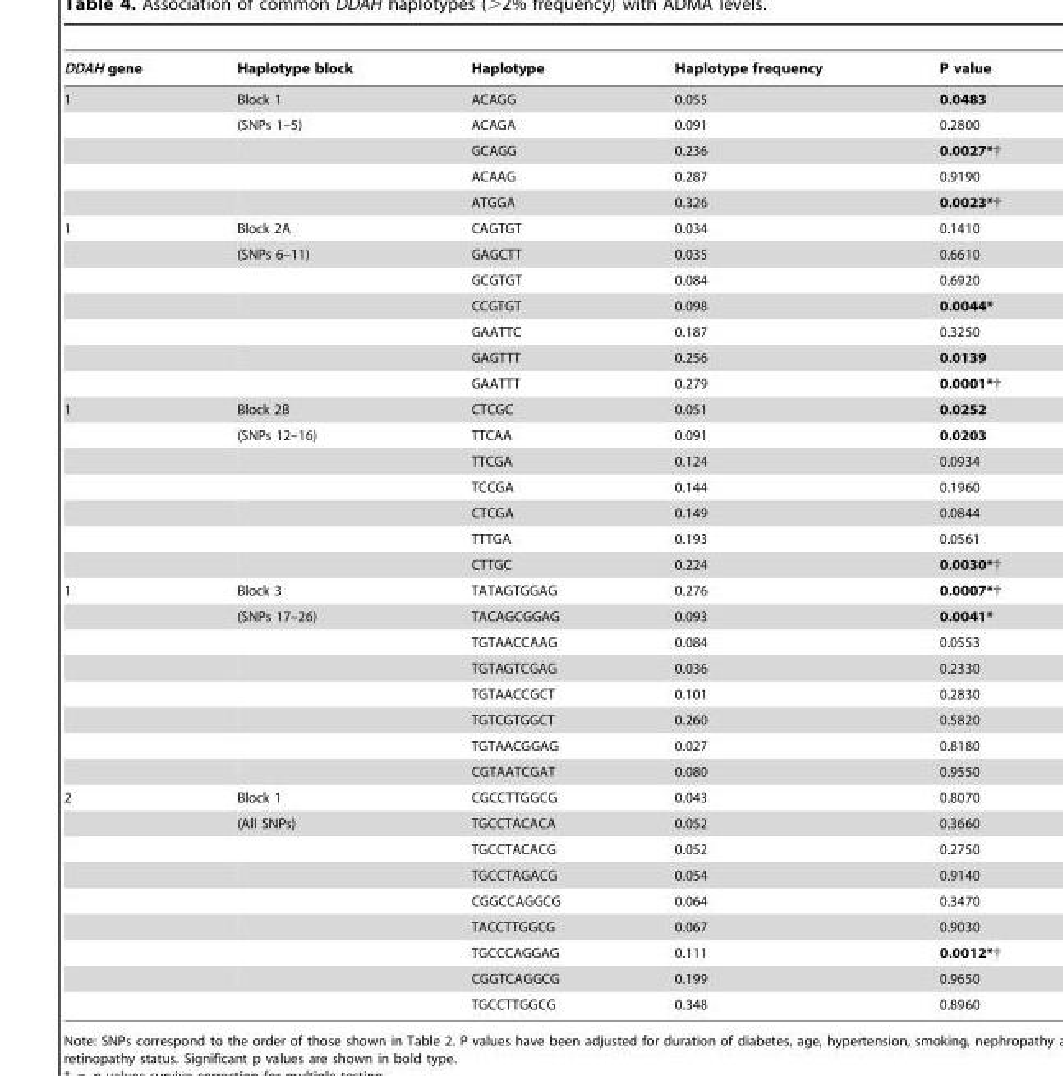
<table><thead><tr><td>DDAH gene</td><td>Haplotype block</td><td>Haplotype</td><td>Haplotype frequency</td><td>P value</td></tr></thead><tbody><tr><td rowspan="5">1</td><td>Block 1</td><td>ACAGG</td><td>0.055</td><td>0.0483</td></tr><tr><td>(SNPs 1–5)</td><td>ACAGA</td><td>0.091</td><td>0.2800</td></tr><tr><td></td><td>GCAGG</td><td>0.236</td><td>0.0027*†</td></tr><tr><td></td><td>ACAAG</td><td>0.287</td><td>0.9190</td></tr><tr><td></td><td>ATGGA</td><td>0.326</td><td>0.0023*†</td></tr><tr><td rowspan="7">1</td><td>Block 2A</td><td>CAGTGT</td><td>0.034</td><td>0.1410</td></tr><tr><td>(SNPs 6–11)</td><td>GAGCTT</td><td>0.035</td><td>0.6610</td></tr><tr><td></td><td>GCGTGT</td><td>0.084</td><td>0.6920</td></tr><tr><td></td><td>CCGTGT</td><td>0.098</td><td>0.0044*</td></tr><tr><td></td><td>GAATTC</td><td>0.187</td><td>0.3250</td></tr><tr><td></td><td>GAGTTT</td><td>0.256</td><td>0.0139</td></tr><tr><td></td><td>GAATTT</td><td>0.279</td><td>0.0001*†</td></tr><tr><td rowspan="7">1</td><td>Block 2B</td><td>CTCGC</td><td>0.051</td><td>0.0252</td></tr><tr><td>(SNPs 12–16)</td><td>TTCAA</td><td>0.091</td><td>0.0203</td></tr><tr><td></td><td>TTCGA</td><td>0.124</td><td>0.0934</td></tr><tr><td></td><td>TCCGA</td><td>0.144</td><td>0.1960</td></tr><tr><td></td><td>CTCGA</td><td>0.149</td><td>0.0844</td></tr><tr><td></td><td>TTTGA</td><td>0.193</td><td>0.0561</td></tr><tr><td></td><td>CTTGC</td><td>0.224</td><td>0.0030*†</td></tr><tr><td rowspan="8">1</td><td>Block 3</td><td>TATAGTGGAG</td><td>0.276</td><td>0.0007*†</td></tr><tr><td>(SNPs 17–26)</td><td>TACAGCGGAG</td><td>0.093</td><td>0.0041*</td></tr><tr><td></td><td>TGTAACCAAG</td><td>0.084</td><td>0.0553</td></tr><tr><td></td><td>TGTAGTCGAG</td><td>0.036</td><td>0.2330</td></tr><tr><td></td><td>TGTAACCGCT</td><td>0.101</td><td>0.2830</td></tr><tr><td></td><td>TGTCGTGGCT</td><td>0.260</td><td>0.5820</td></tr><tr><td></td><td>TGTAACGGAG</td><td>0.027</td><td>0.8180</td></tr><tr><td></td><td>CGTAATCGAT</td><td>0.080</td><td>0.9550</td></tr><tr><td rowspan="9">2</td><td>Block 1</td><td>CGCCTTGGCG</td><td>0.043</td><td>0.8070</td></tr><tr><td>(All SNPs)</td><td>TGCCTACACA</td><td>0.052</td><td>0.3660</td></tr><tr><td></td><td>TGCCTACACG</td><td>0.052</td><td>0.2750</td></tr><tr><td></td><td>TGCCTAGACG</td><td>0.054</td><td>0.9140</td></tr><tr><td></td><td>CGGCCAGGCG</td><td>0.064</td><td>0.3470</td></tr><tr><td></td><td>TACCTTGGCG</td><td>0.067</td><td>0.9030</td></tr><tr><td></td><td>TGCCCAGGAG</td><td>0.111</td><td>0.0012*†</td></tr><tr><td></td><td>CGGTCAGGCG</td><td>0.199</td><td>0.9650</td></tr><tr><td></td><td>TGCCTTGGCG</td><td>0.348</td><td>0.8960</td></tr></tbody></table>